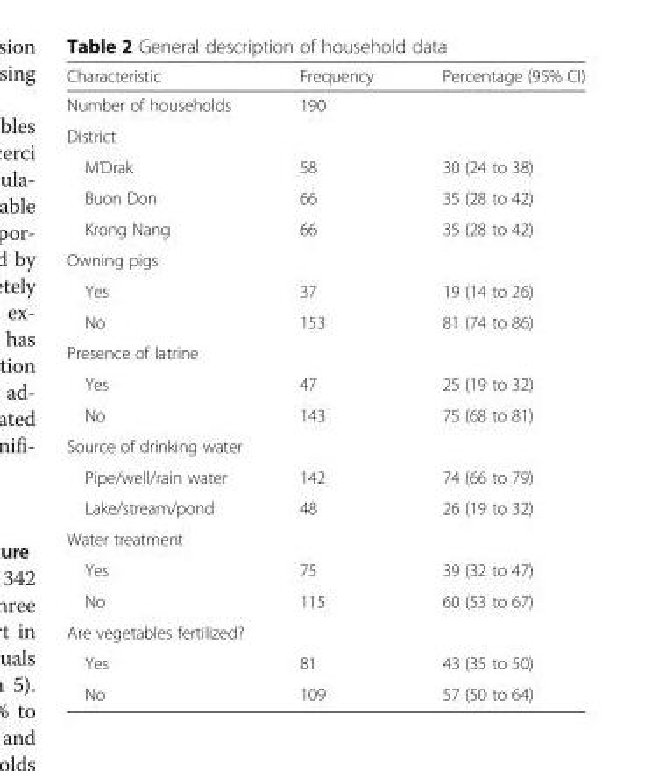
<table><thead><tr><td>Characteristic</td><td>Frequency</td><td>Percentage (95% CI)</td></tr></thead><tbody><tr><td>Number of households</td><td>190</td><td></td></tr><tr><td colspan="3">District</td></tr><tr><td>M’Drak</td><td>58</td><td>30 (24 to 38)</td></tr><tr><td>Buon Don</td><td>66</td><td>35 (28 to 42)</td></tr><tr><td>Krong Nang</td><td>66</td><td>35 (28 to 42)</td></tr><tr><td colspan="3">Owning pigs</td></tr><tr><td>Yes</td><td>37</td><td>19 (14 to 26)</td></tr><tr><td>No</td><td>153</td><td>81 (74 to 86)</td></tr><tr><td colspan="3">Presence of latrine</td></tr><tr><td>Yes</td><td>47</td><td>25 (19 to 32)</td></tr><tr><td>No</td><td>143</td><td>75 (68 to 81)</td></tr><tr><td colspan="3">Source of drinking water</td></tr><tr><td>Pipe/well/rain water</td><td>142</td><td>74 (66 to 79)</td></tr><tr><td>Lake/stream/pond</td><td>48</td><td>26 (19 to 32)</td></tr><tr><td colspan="3">Water treatment</td></tr><tr><td>Yes</td><td>75</td><td>39 (32 to 47)</td></tr><tr><td>No</td><td>115</td><td>60 (53 to 67)</td></tr><tr><td colspan="3">Are vegetables fertilized?</td></tr><tr><td>Yes</td><td>81</td><td>43 (35 to 50)</td></tr><tr><td>No</td><td>109</td><td>57 (50 to 64)</td></tr></tbody></table>